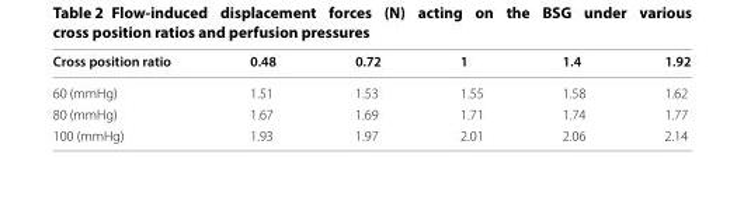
<table><thead><tr><td>Cross position ratio</td><td>0.48</td><td>0.72</td><td>1</td><td>1.4</td><td>1.92</td></tr></thead><tbody><tr><td>60 (mmHg)</td><td>1.51</td><td>1.53</td><td>1.55</td><td>1.58</td><td>1.62</td></tr><tr><td>80 (mmHg)</td><td>1.67</td><td>1.69</td><td>1.71</td><td>1.74</td><td>1.77</td></tr><tr><td>100 (mmHg)</td><td>1.93</td><td>1.97</td><td>2.01</td><td>2.06</td><td>2.14</td></tr></tbody></table>